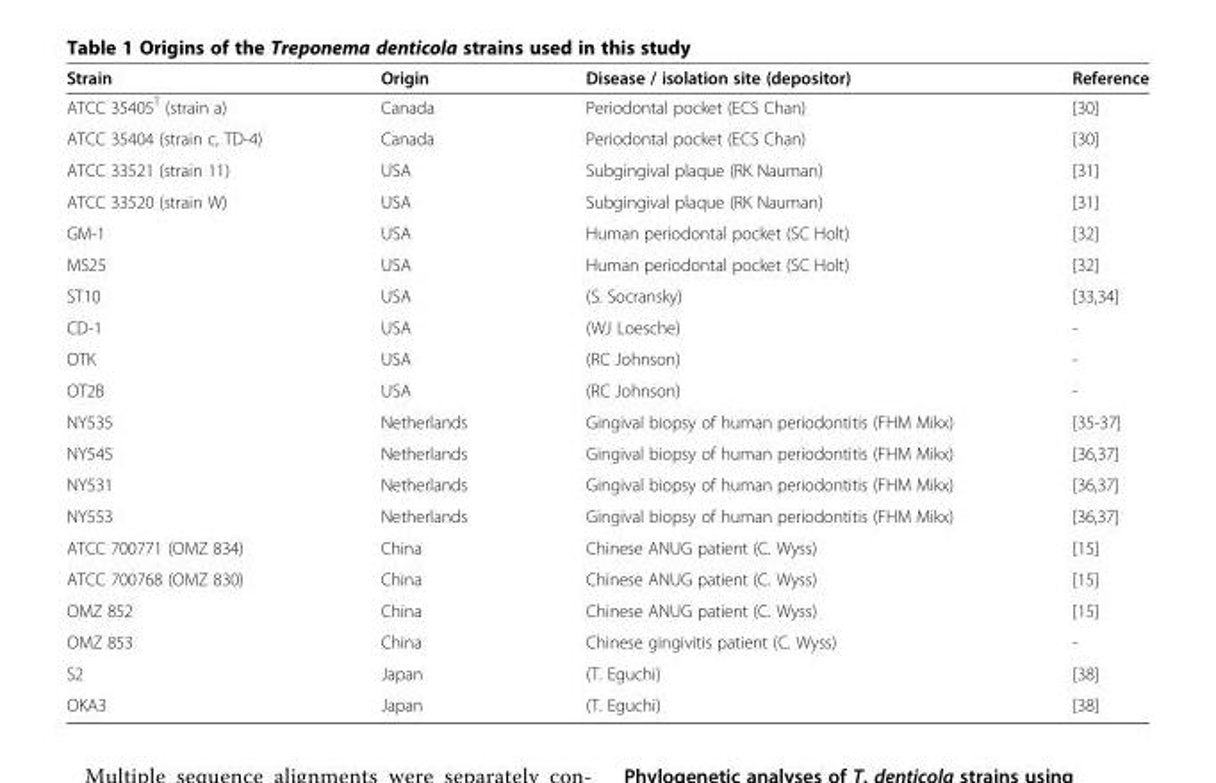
<table><thead><tr><td>Strain</td><td>Origin</td><td>Disease / isolation site (depositor)</td><td>Reference</td></tr></thead><tbody><tr><td>ATCC 35405<sup>T</sup> (strain a)</td><td>Canada</td><td>Periodontal pocket (ECS Chan)</td><td>[30]</td></tr><tr><td>ATCC 35404 (strain c, TD-4)</td><td>Canada</td><td>Periodontal pocket (ECS Chan)</td><td>[30]</td></tr><tr><td>ATCC 33521 (strain 11)</td><td>USA</td><td>Subgingival plaque (RK Nauman)</td><td>[31]</td></tr><tr><td>ATCC 33520 (strain W)</td><td>USA</td><td>Subgingival plaque (RK Nauman)</td><td>[31]</td></tr><tr><td>GM-1</td><td>USA</td><td>Human periodontal pocket (SC Holt)</td><td>[32]</td></tr><tr><td>MS25</td><td>USA</td><td>Human periodontal pocket (SC Holt)</td><td>[32]</td></tr><tr><td>ST10</td><td>USA</td><td>(S. Socransky)</td><td>[33,34]</td></tr><tr><td>CD-1</td><td>USA</td><td>(WJ Loesche)</td><td>-</td></tr><tr><td>OTK</td><td>USA</td><td>(RC Johnson)</td><td>-</td></tr><tr><td>OT2B</td><td>USA</td><td>(RC Johnson)</td><td>-</td></tr><tr><td>NY535</td><td>Netherlands</td><td>Gingival biopsy of human periodontitis (FHM Mikx)</td><td>[35-37]</td></tr><tr><td>NY545</td><td>Netherlands</td><td>Gingival biopsy of human periodontitis (FHM Mikx)</td><td>[36,37]</td></tr><tr><td>NY531</td><td>Netherlands</td><td>Gingival biopsy of human periodontitis (FHM Mikx)</td><td>[36,37]</td></tr><tr><td>NY553</td><td>Netherlands</td><td>Gingival biopsy of human periodontitis (FHM Mikx)</td><td>[36,37]</td></tr><tr><td>ATCC 700771 (OMZ 834)</td><td>China</td><td>Chinese ANUG patient (C. Wyss)</td><td>[15]</td></tr><tr><td>ATCC 700768 (OMZ 830)</td><td>China</td><td>Chinese ANUG patient (C. Wyss)</td><td>[15]</td></tr><tr><td>OMZ 852</td><td>China</td><td>Chinese ANUG patient (C. Wyss)</td><td>[15]</td></tr><tr><td>OMZ 853</td><td>China</td><td>Chinese gingivitis patient (C. Wyss)</td><td>-</td></tr><tr><td>S2</td><td>Japan</td><td>(T. Eguchi)</td><td>[38]</td></tr><tr><td>OKA3</td><td>Japan</td><td>(T. Eguchi)</td><td>[38]</td></tr></tbody></table>